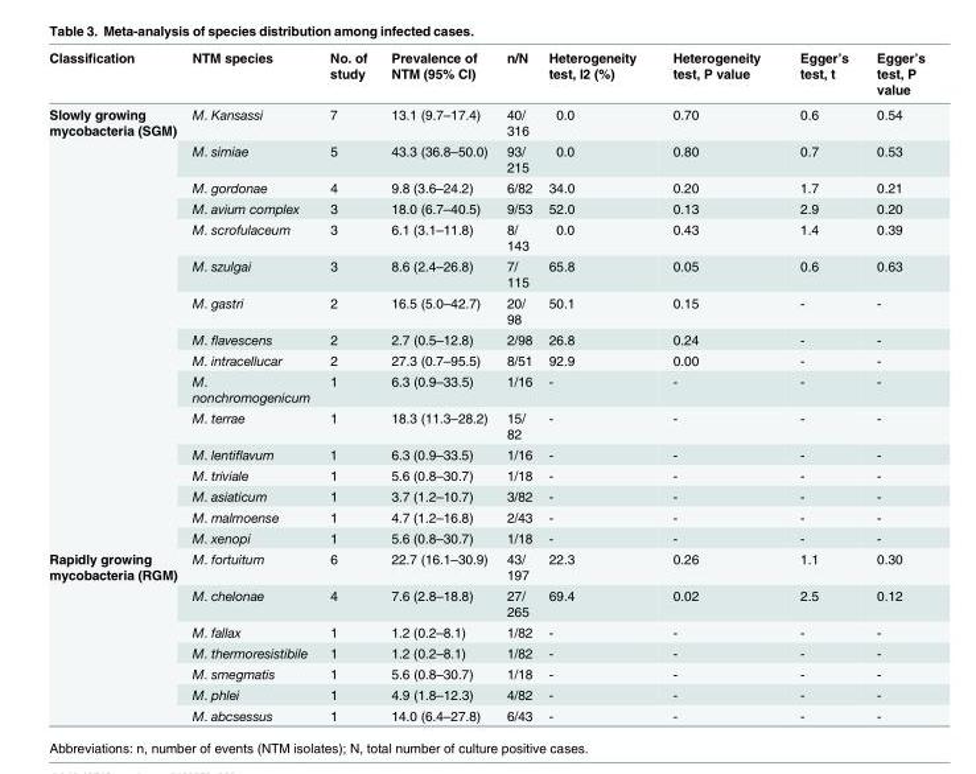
<table><thead><tr><td>Classification</td><td>NTM species</td><td>No. of study</td><td>Prevalence of NTM (95% CI)</td><td>n/N</td><td>Heterogeneity test, I2 (%)</td><td>Heterogeneity test, P value</td><td>Egger’s test, t</td><td>Egger’s test, P value</td></tr></thead><tbody><tr><td rowspan="16">Slowly growing mycobacteria (SGM)</td><td>M. Kansassi</td><td>7</td><td>13.1 (9.7–17.4)</td><td>40/ 316</td><td>0.0</td><td>0.70</td><td>0.6</td><td>0.54</td></tr><tr><td>M. simiae</td><td>5</td><td>43.3 (36.8–50.0)</td><td>93/ 215</td><td>0.0</td><td>0.80</td><td>0.7</td><td>0.53</td></tr><tr><td>M. gordonae</td><td>4</td><td>9.8 (3.6–24.2)</td><td>6/82</td><td>34.0</td><td>0.20</td><td>1.7</td><td>0.21</td></tr><tr><td>M. avium complex</td><td>3</td><td>18.0 (6.7–40.5)</td><td>9/53</td><td>52.0</td><td>0.13</td><td>2.9</td><td>0.20</td></tr><tr><td>M. scrofulaceum</td><td>3</td><td>6.1 (3.1–11.8)</td><td>8/ 143</td><td>0.0</td><td>0.43</td><td>1.4</td><td>0.39</td></tr><tr><td>M. szulgai</td><td>3</td><td>8.6 (2.4–26.8)</td><td>7/ 115</td><td>65.8</td><td>0.05</td><td>0.6</td><td>0.63</td></tr><tr><td>M. gastri</td><td>2</td><td>16.5 (5.0–42.7)</td><td>20/ 98</td><td>50.1</td><td>0.15</td><td>-</td><td>-</td></tr><tr><td>M. flavescens</td><td>2</td><td>2.7 (0.5–12.8)</td><td>2/98</td><td>26.8</td><td>0.24</td><td>-</td><td>-</td></tr><tr><td>M. intracellucar</td><td>2</td><td>27.3 (0.7–95.5)</td><td>8/51</td><td>92.9</td><td>0.00</td><td>-</td><td>-</td></tr><tr><td>M. nonchromogenicum</td><td>1</td><td>6.3 (0.9–33.5)</td><td>1/16</td><td>-</td><td>-</td><td>-</td><td>-</td></tr><tr><td>M. terrae</td><td>1</td><td>18.3 (11.3–28.2)</td><td>15/ 82</td><td>-</td><td>-</td><td>-</td><td>-</td></tr><tr><td>M. lentiflavum</td><td>1</td><td>6.3 (0.9–33.5)</td><td>1/16</td><td>-</td><td>-</td><td>-</td><td>-</td></tr><tr><td>M. triviale</td><td>1</td><td>5.6 (0.8–30.7)</td><td>1/18</td><td>-</td><td>-</td><td>-</td><td>-</td></tr><tr><td>M. asiaticum</td><td>1</td><td>3.7 (1.2–10.7)</td><td>3/82</td><td>-</td><td>-</td><td>-</td><td>-</td></tr><tr><td>M. malmoense</td><td>1</td><td>4.7 (1.2–16.8)</td><td>2/43</td><td>-</td><td>-</td><td>-</td><td>-</td></tr><tr><td>M. xenopi</td><td>1</td><td>5.6 (0.8–30.7)</td><td>1/18</td><td>-</td><td>-</td><td>-</td><td>-</td></tr><tr><td rowspan="7">Rapidly growing mycobacteria (RGM)</td><td>M. fortuitum</td><td>6</td><td>22.7 (16.1–30.9)</td><td>43/ 197</td><td>22.3</td><td>0.26</td><td>1.1</td><td>0.30</td></tr><tr><td>M. chelonae</td><td>4</td><td>7.6 (2.8–18.8)</td><td>27/ 265</td><td>69.4</td><td>0.02</td><td>2.5</td><td>0.12</td></tr><tr><td>M. fallax</td><td>1</td><td>1.2 (0.2–8.1)</td><td>1/82</td><td>-</td><td>-</td><td>-</td><td>-</td></tr><tr><td>M. thermoresistibile</td><td>1</td><td>1.2 (0.2–8.1)</td><td>1/82</td><td>-</td><td>-</td><td>-</td><td>-</td></tr><tr><td>M. smegmatis</td><td>1</td><td>5.6 (0.8–30.7)</td><td>1/18</td><td>-</td><td>-</td><td>-</td><td>-</td></tr><tr><td>M. phlei</td><td>1</td><td>4.9 (1.8–12.3)</td><td>4/82</td><td>-</td><td>-</td><td>-</td><td>-</td></tr><tr><td>M. abcsessus</td><td>1</td><td>14.0 (6.4–27.8)</td><td>6/43</td><td>-</td><td>-</td><td>-</td><td>-</td></tr></tbody></table>